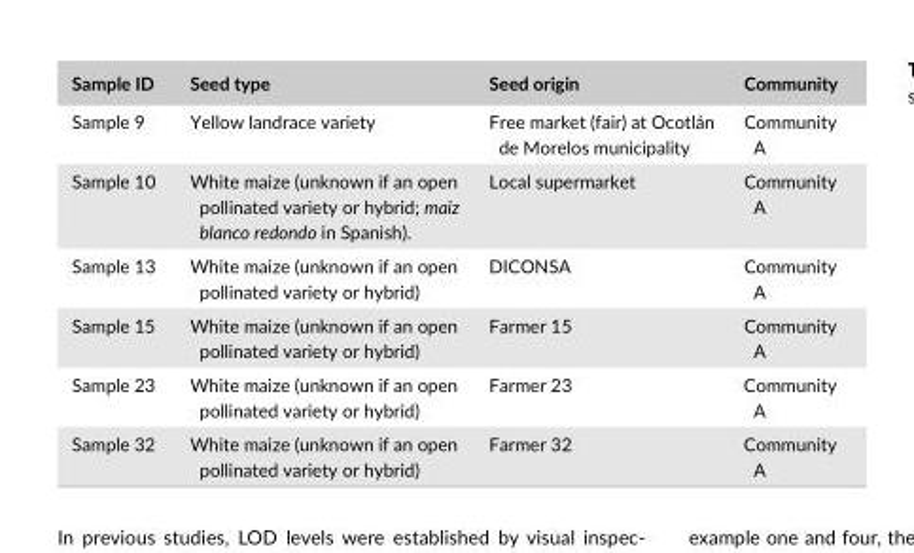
<table><thead><tr><td>Sample ID</td><td>Seed type</td><td>Seed origin</td><td>Community</td></tr></thead><tbody><tr><td>Sample 9</td><td>Yellow landrace variety</td><td>Free market (fair) at Ocotlán de Morelos municipality</td><td>Community A</td></tr><tr><td>Sample 10</td><td>White maize (unknown if an open pollinated variety or hybrid; maiz blanco redondo in Spanish).</td><td>Local supermarket</td><td>Community A</td></tr><tr><td>Sample 13</td><td>White maize (unknown if an open pollinated variety or hybrid)</td><td>DICONSA</td><td>Community A</td></tr><tr><td>Sample 15</td><td>White maize (unknown if an open pollinated variety or hybrid)</td><td>Farmer 15</td><td>Community A</td></tr><tr><td>Sample 23</td><td>White maize (unknown if an open pollinated variety or hybrid)</td><td>Farmer 23</td><td>Community A</td></tr><tr><td>Sample 32</td><td>White maize (unknown if an open pollinated variety or hybrid)</td><td>Farmer 32</td><td>Community A</td></tr></tbody></table>